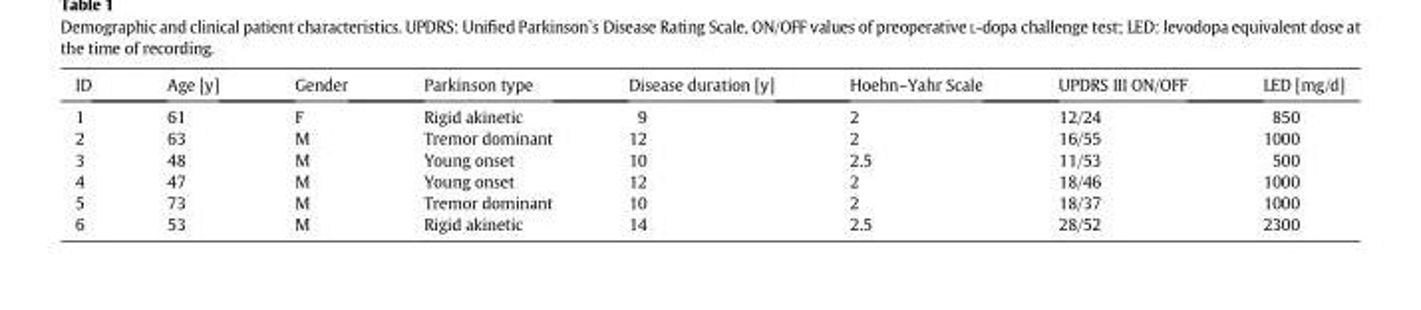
<table><thead><tr><td>ID</td><td>Age [y]</td><td>Gender</td><td>Parkinson type</td><td>Disease duration [y]</td><td>Hoehn–Yahr Scale</td><td>UPDRS III ON/OFF</td><td>LED [mg/d]</td></tr></thead><tbody><tr><td>1</td><td>61</td><td>F</td><td>Rigid akinetic</td><td>9</td><td>2</td><td>12/24</td><td>850</td></tr><tr><td>2</td><td>63</td><td>M</td><td>Tremor dominant</td><td>12</td><td>2</td><td>16/55</td><td>1000</td></tr><tr><td>3</td><td>48</td><td>M</td><td>Young onset</td><td>10</td><td>2.5</td><td>11/53</td><td>500</td></tr><tr><td>4</td><td>47</td><td>M</td><td>Young onset</td><td>12</td><td>2</td><td>18/46</td><td>1000</td></tr><tr><td>5</td><td>73</td><td>M</td><td>Tremor dominant</td><td>10</td><td>2</td><td>18/37</td><td>1000</td></tr><tr><td>6</td><td>53</td><td>M</td><td>Rigid akinetic</td><td>14</td><td>2.5</td><td>28/52</td><td>2300</td></tr></tbody></table>